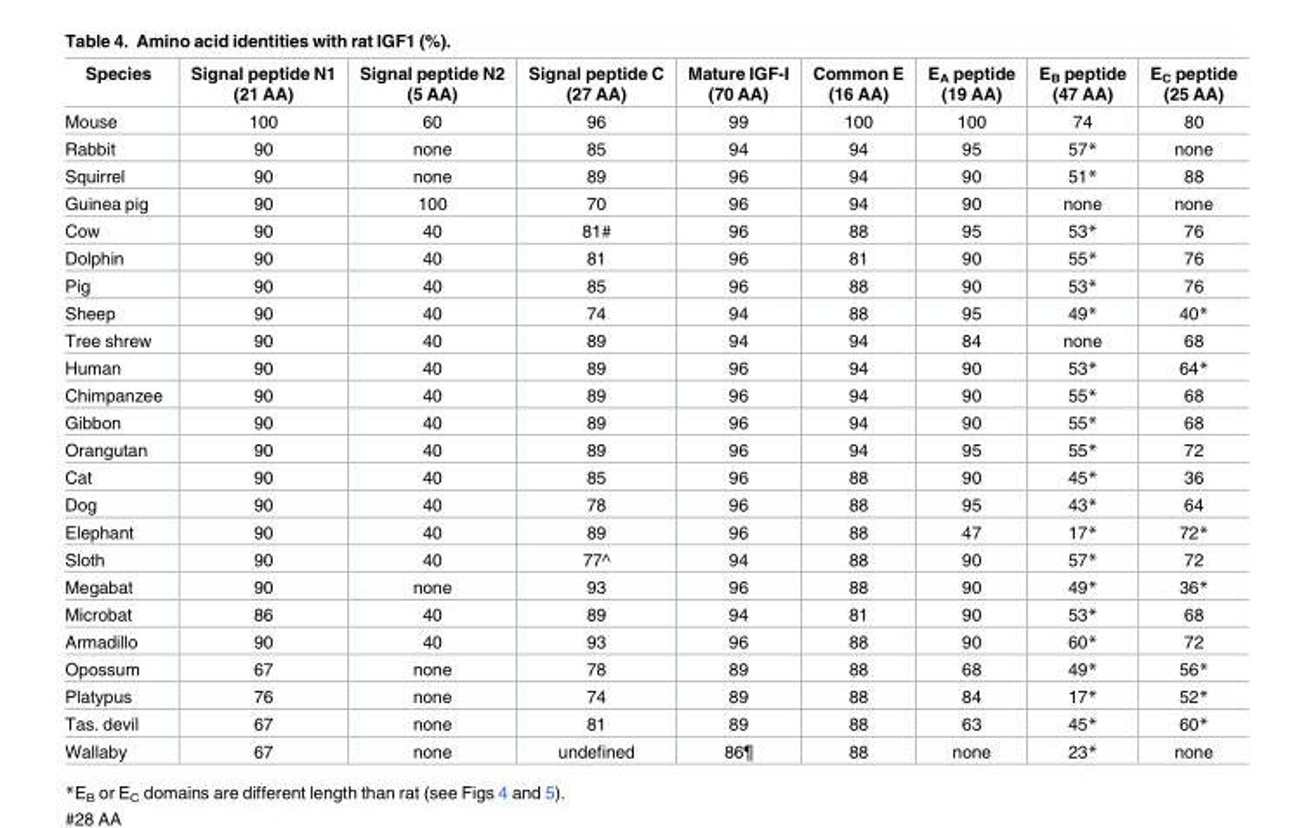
<table><thead><tr><td>Species</td><td>Signal peptide N1 (21 AA)</td><td>Signal peptide N2 (5 AA)</td><td>Signal peptide C (27 AA)</td><td>Mature IGF-I (70 AA)</td><td>Common E (16 AA)</td><td>E<sub>A</sub> peptide (19 AA)</td><td>E<sub>B</sub> peptide (47 AA)</td><td>E<sub>C</sub> peptide (25 AA)</td></tr></thead><tbody><tr><td>Mouse</td><td>100</td><td>60</td><td>96</td><td>99</td><td>100</td><td>100</td><td>74</td><td>80</td></tr><tr><td>Rabbit</td><td>90</td><td>none</td><td>85</td><td>94</td><td>94</td><td>95</td><td>57*</td><td>none</td></tr><tr><td>Squirrel</td><td>90</td><td>none</td><td>89</td><td>96</td><td>94</td><td>90</td><td>51*</td><td>88</td></tr><tr><td>Guinea pig</td><td>90</td><td>100</td><td>70</td><td>96</td><td>94</td><td>90</td><td>none</td><td>none</td></tr><tr><td>Cow</td><td>90</td><td>40</td><td>81#</td><td>96</td><td>88</td><td>95</td><td>53*</td><td>76</td></tr><tr><td>Dolphin</td><td>90</td><td>40</td><td>81</td><td>96</td><td>81</td><td>90</td><td>55*</td><td>76</td></tr><tr><td>Pig</td><td>90</td><td>40</td><td>85</td><td>96</td><td>88</td><td>90</td><td>53*</td><td>76</td></tr><tr><td>Sheep</td><td>90</td><td>40</td><td>74</td><td>94</td><td>88</td><td>95</td><td>49*</td><td>40*</td></tr><tr><td>Tree shrew</td><td>90</td><td>40</td><td>89</td><td>94</td><td>94</td><td>84</td><td>none</td><td>68</td></tr><tr><td>Human</td><td>90</td><td>40</td><td>89</td><td>96</td><td>94</td><td>90</td><td>53*</td><td>64*</td></tr><tr><td>Chimpanzee</td><td>90</td><td>40</td><td>89</td><td>96</td><td>94</td><td>90</td><td>55*</td><td>68</td></tr><tr><td>Gibbon</td><td>90</td><td>40</td><td>89</td><td>96</td><td>94</td><td>90</td><td>55*</td><td>68</td></tr><tr><td>Orangutan</td><td>90</td><td>40</td><td>89</td><td>96</td><td>94</td><td>95</td><td>55*</td><td>72</td></tr><tr><td>Cat</td><td>90</td><td>40</td><td>85</td><td>96</td><td>88</td><td>90</td><td>45*</td><td>36</td></tr><tr><td>Dog</td><td>90</td><td>40</td><td>78</td><td>96</td><td>88</td><td>95</td><td>43*</td><td>64</td></tr><tr><td>Elephant</td><td>90</td><td>40</td><td>89</td><td>96</td><td>88</td><td>47</td><td>17*</td><td>72*</td></tr><tr><td>Sloth</td><td>90</td><td>40</td><td>77^</td><td>94</td><td>88</td><td>90</td><td>57*</td><td>72</td></tr><tr><td>Megabat</td><td>90</td><td>none</td><td>93</td><td>96</td><td>88</td><td>90</td><td>49*</td><td>36*</td></tr><tr><td>Microbat</td><td>86</td><td>40</td><td>89</td><td>94</td><td>81</td><td>90</td><td>53*</td><td>68</td></tr><tr><td>Armadillo</td><td>90</td><td>40</td><td>93</td><td>96</td><td>88</td><td>90</td><td>60*</td><td>72</td></tr><tr><td>Opossum</td><td>67</td><td>none</td><td>78</td><td>89</td><td>88</td><td>68</td><td>49*</td><td>56*</td></tr><tr><td>Platypus</td><td>76</td><td>none</td><td>74</td><td>89</td><td>88</td><td>84</td><td>17*</td><td>52*</td></tr><tr><td>Tas. devil</td><td>67</td><td>none</td><td>81</td><td>89</td><td>88</td><td>63</td><td>45*</td><td>60*</td></tr><tr><td>Wallaby</td><td>67</td><td>none</td><td>undefined</td><td>86¶</td><td>88</td><td>none</td><td>23*</td><td>none</td></tr></tbody></table>